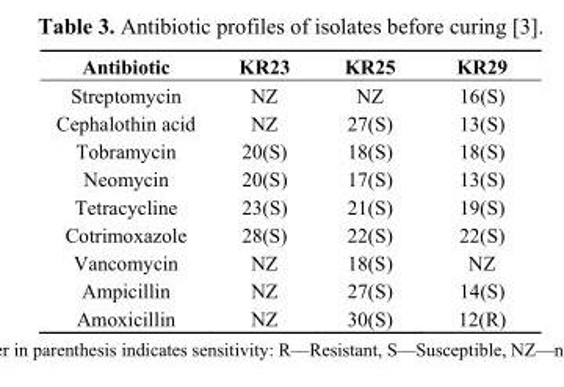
<table><thead><tr><td>Antibiotic</td><td>KR23</td><td>KR25</td><td>KR29</td></tr></thead><tbody><tr><td>Streptomycin</td><td>NZ</td><td>NZ</td><td>16(S)</td></tr><tr><td>Cephalothin acid</td><td>NZ</td><td>27(S)</td><td>13(S)</td></tr><tr><td>Tobramycin</td><td>20(S)</td><td>18(S)</td><td>18(S)</td></tr><tr><td>Neomycin</td><td>20(S)</td><td>17(S)</td><td>13(S)</td></tr><tr><td>Tetracycline</td><td>23(S)</td><td>21(S)</td><td>19(S)</td></tr><tr><td>Cotrimoxazole</td><td>28(S)</td><td>22(S)</td><td>22(S)</td></tr><tr><td>Vancomycin</td><td>NZ</td><td>18(S)</td><td>NZ</td></tr><tr><td>Ampicillin</td><td>NZ</td><td>27(S)</td><td>14(S)</td></tr><tr><td>Amoxicillin</td><td>NZ</td><td>30(S)</td><td>12(R)</td></tr></tbody></table>